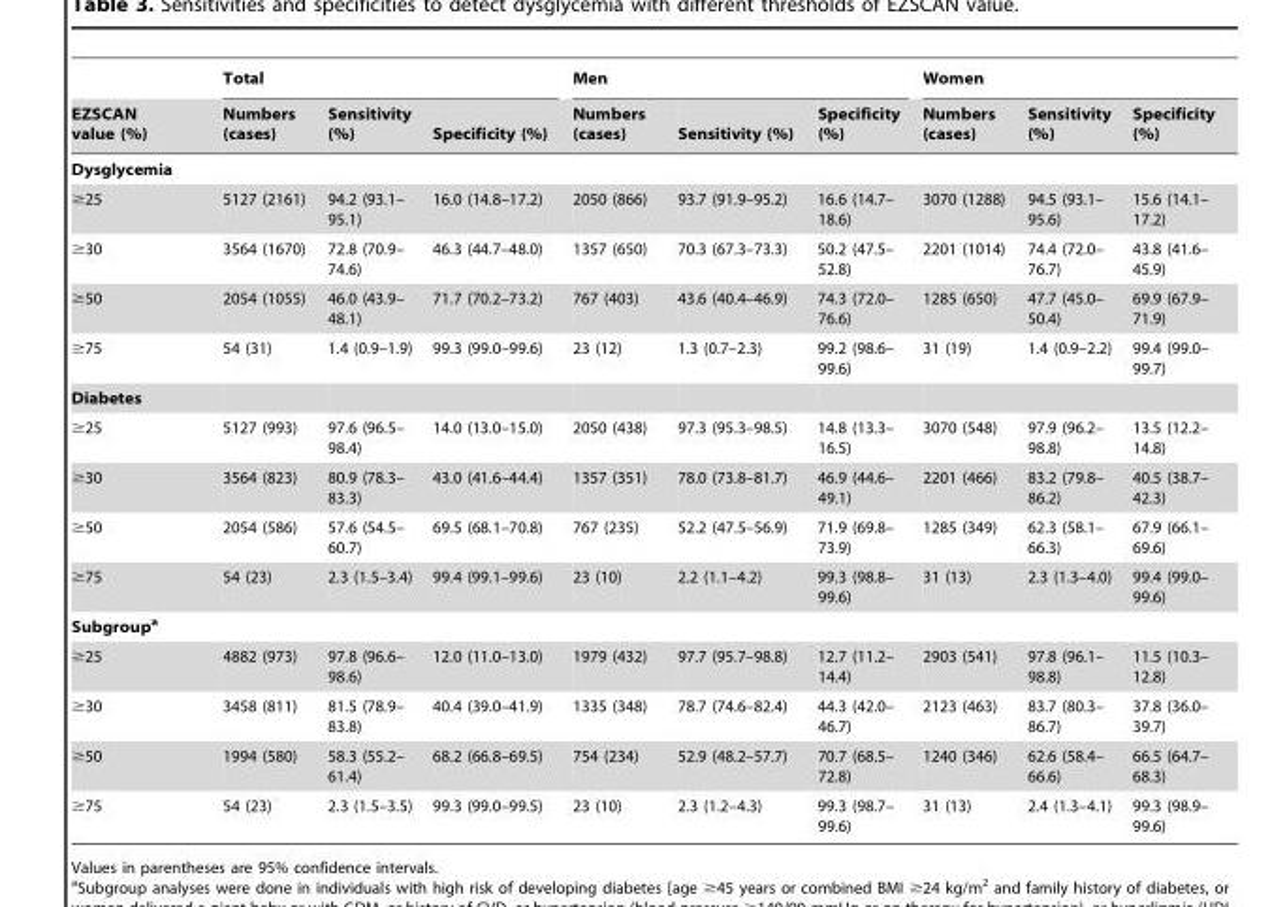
<table><thead><tr><td rowspan="2">EZSCAN value (%)</td><td colspan="3">Total</td><td colspan="3">Men</td><td colspan="3">Women</td></tr><tr><td>Numbers (cases)</td><td>Sensitivity (%)</td><td>Specificity (%)</td><td>Numbers (cases)</td><td>Sensitivity (%)</td><td>Specificity (%)</td><td>Numbers (cases)</td><td>Sensitivity (%)</td><td>Specificity (%)</td></tr></thead><tbody><tr><td colspan="10">Dysglycemia</td></tr><tr><td>≥25</td><td>5127 (2161)</td><td>94.2 (93.1– 95.1)</td><td>16.0 (14.8–17.2)</td><td>2050 (866)</td><td>93.7 (91.9–95.2)</td><td>16.6 (14.7– 18.6)</td><td>3070 (1288)</td><td>94.5 (93.1– 95.6)</td><td>15.6 (14.1– 17.2)</td></tr><tr><td>≥30</td><td>3564 (1670)</td><td>72.8 (70.9– 74.6)</td><td>46.3 (44.7–48.0)</td><td>1357 (650)</td><td>70.3 (67.3–73.3)</td><td>50.2 (47.5– 52.8)</td><td>2201 (1014)</td><td>74.4 (72.0– 76.7)</td><td>43.8 (41.6– 45.9)</td></tr><tr><td>≥50</td><td>2054 (1055)</td><td>46.0 (43.9– 48.1)</td><td>71.7 (70.2–73.2)</td><td>767 (403)</td><td>43.6 (40.4–46.9)</td><td>74.3 (72.0– 76.6)</td><td>1285 (650)</td><td>47.7 (45.0– 50.4)</td><td>69.9 (67.9– 71.9)</td></tr><tr><td>≥75</td><td>54 (31)</td><td>1.4 (0.9–1.9)</td><td>99.3 (99.0–99.6)</td><td>23 (12)</td><td>1.3 (0.7–2.3)</td><td>99.2 (98.6– 99.6)</td><td>31 (19)</td><td>1.4 (0.9–2.2)</td><td>99.4 (99.0– 99.7)</td></tr><tr><td colspan="10">Diabetes</td></tr><tr><td>≥25</td><td>5127 (993)</td><td>97.6 (96.5– 98.4)</td><td>14.0 (13.0–15.0)</td><td>2050 (438)</td><td>97.3 (95.3–98.5)</td><td>14.8 (13.3– 16.5)</td><td>3070 (548)</td><td>97.9 (96.2– 98.8)</td><td>13.5 (12.2– 14.8)</td></tr><tr><td>≥30</td><td>3564 (823)</td><td>80.9 (78.3– 83.3)</td><td>43.0 (41.6–44.4)</td><td>1357 (351)</td><td>78.0 (73.8–81.7)</td><td>46.9 (44.6– 49.1)</td><td>2201 (466)</td><td>83.2 (79.8– 86.2)</td><td>40.5 (38.7– 42.3)</td></tr><tr><td>≥50</td><td>2054 (586)</td><td>57.6 (54.5– 60.7)</td><td>69.5 (68.1–70.8)</td><td>767 (235)</td><td>52.2 (47.5–56.9)</td><td>71.9 (69.8– 73.9)</td><td>1285 (349)</td><td>62.3 (58.1– 66.3)</td><td>67.9 (66.1– 69.6)</td></tr><tr><td>≥75</td><td>54 (23)</td><td>2.3 (1.5–3.4)</td><td>99.4 (99.1–99.6)</td><td>23 (10)</td><td>2.2 (1.1–4.2)</td><td>99.3 (98.8– 99.6)</td><td>31 (13)</td><td>2.3 (1.3–4.0)</td><td>99.4 (99.0– 99.6)</td></tr><tr><td colspan="10">Subgroupa</td></tr><tr><td>≥25</td><td>4882 (973)</td><td>97.8 (96.6– 98.6)</td><td>12.0 (11.0–13.0)</td><td>1979 (432)</td><td>97.7 (95.7–98.8)</td><td>12.7 (11.2– 14.4)</td><td>2903 (541)</td><td>97.8 (96.1– 98.8)</td><td>11.5 (10.3– 12.8)</td></tr><tr><td>≥30</td><td>3458 (811)</td><td>81.5 (78.9– 83.8)</td><td>40.4 (39.0–41.9)</td><td>1335 (348)</td><td>78.7 (74.6–82.4)</td><td>44.3 (42.0– 46.7)</td><td>2123 (463)</td><td>83.7 (80.3– 86.7)</td><td>37.8 (36.0– 39.7)</td></tr><tr><td>≥50</td><td>1994 (580)</td><td>58.3 (55.2– 61.4)</td><td>68.2 (66.8–69.5)</td><td>754 (234)</td><td>52.9 (48.2–57.7)</td><td>70.7 (68.5– 72.8)</td><td>1240 (346)</td><td>62.6 (58.4– 66.6)</td><td>66.5 (64.7– 68.3)</td></tr><tr><td>≥75</td><td>54 (23)</td><td>2.3 (1.5–3.5)</td><td>99.3 (99.0–99.5)</td><td>23 (10)</td><td>2.3 (1.2–4.3)</td><td>99.3 (98.7– 99.6)</td><td>31 (13)</td><td>2.4 (1.3–4.1)</td><td>99.3 (98.9– 99.6)</td></tr></tbody></table>